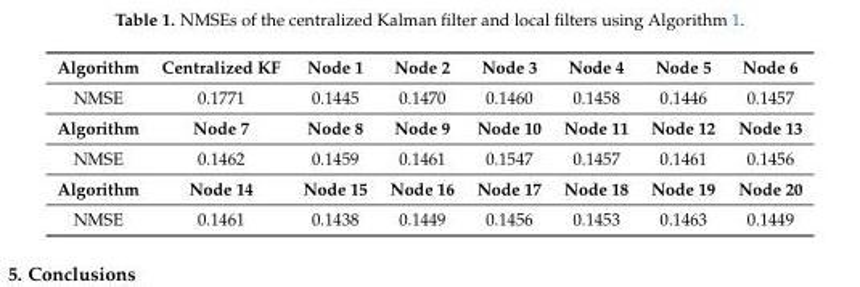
<table><tbody><tr><td>Algorithm</td><td>Centralized KF</td><td>Node 1</td><td>Node 2</td><td>Node 3</td><td>Node 4</td><td>Node 5</td><td>Node 6</td></tr><tr><td>NMSE</td><td>0.1771</td><td>0.1445</td><td>0.1470</td><td>0.1460</td><td>0.1458</td><td>0.1446</td><td>0.1457</td></tr><tr><td>Algorithm</td><td>Node 7</td><td>Node 8</td><td>Node 9</td><td>Node 10</td><td>Node 11</td><td>Node 12</td><td>Node 13</td></tr><tr><td>NMSE</td><td>0.1462</td><td>0.1459</td><td>0.1461</td><td>0.1547</td><td>0.1457</td><td>0.1461</td><td>0.1456</td></tr><tr><td>Algorithm</td><td>Node 14</td><td>Node 15</td><td>Node 16</td><td>Node 17</td><td>Node 18</td><td>Node 19</td><td>Node 20</td></tr><tr><td>NMSE</td><td>0.1461</td><td>0.1438</td><td>0.1449</td><td>0.1456</td><td>0.1453</td><td>0.1463</td><td>0.1449</td></tr></tbody></table>